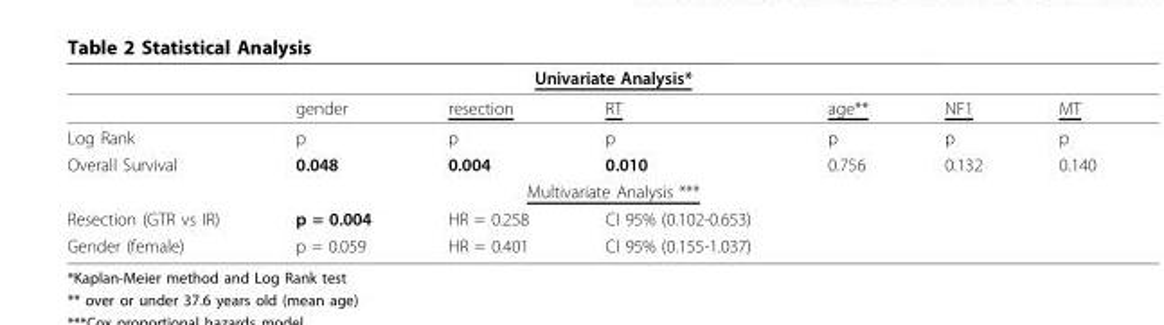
<table><thead><tr><td colspan="7">Univariate Analysis*</td></tr><tr><td></td><td>gender</td><td>resection</td><td>RT</td><td>age**</td><td>NF1</td><td>MT</td></tr></thead><tbody><tr><td>Log Rank</td><td>p</td><td>p</td><td>p</td><td>p</td><td>p</td><td>p</td></tr><tr><td>Overall Survival</td><td>0.048</td><td>0.004</td><td>0.010</td><td>0.756</td><td>0.132</td><td>0.140</td></tr><tr><td colspan="7">Multivariate Analysis ***</td></tr><tr><td>Resection (GTR vs IR)</td><td>p = 0.004</td><td>HR = 0.258</td><td>CI 95% (0.102-0.653)</td><td></td><td></td><td></td></tr><tr><td>Gender (female)</td><td>p = 0.059</td><td>HR = 0.401</td><td>CI 95% (0.155-1.037)</td><td></td><td></td><td></td></tr></tbody></table>